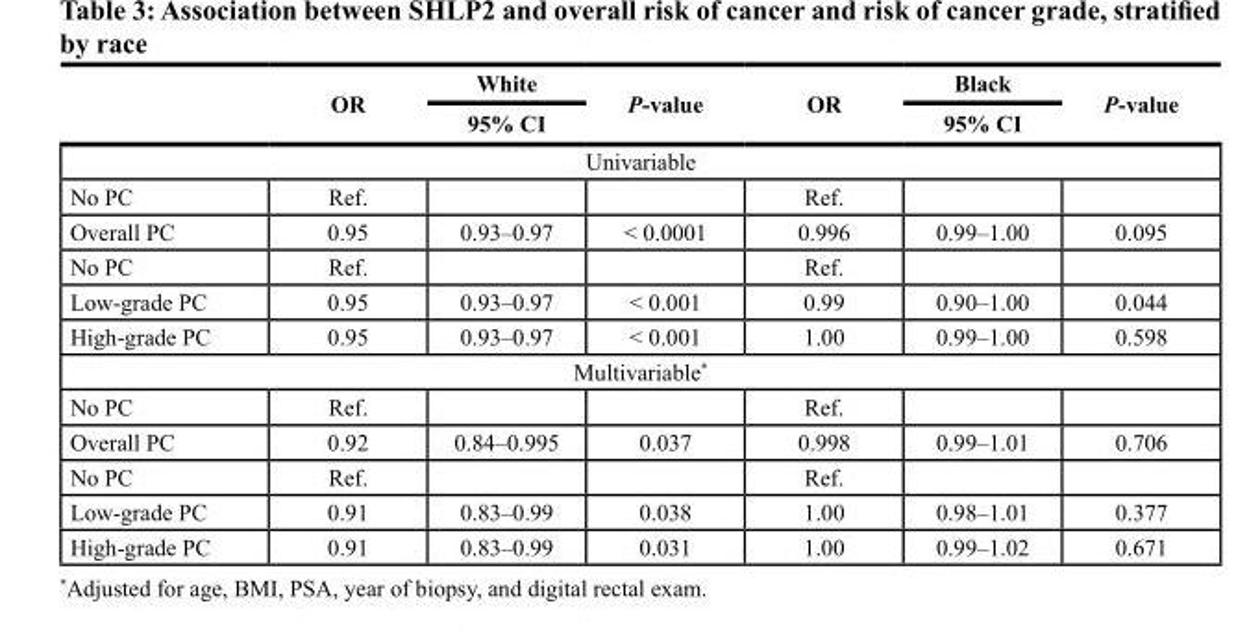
<table><thead><tr><td rowspan="2"></td><td rowspan="2">OR</td><td rowspan="2">White 95% CI</td><td rowspan="2">P-value</td><td rowspan="2">OR</td><td rowspan="2">Black 95% CI</td><td rowspan="2">P-value</td></tr><tr></tr></thead><tbody><tr><td colspan="7">Univariable</td></tr><tr><td>No PC</td><td>Ref.</td><td></td><td></td><td>Ref.</td><td></td><td></td></tr><tr><td>Overall PC</td><td>0.95</td><td>0.93–0.97</td><td>&lt; 0.0001</td><td>0.996</td><td>0.99–1.00</td><td>0.095</td></tr><tr><td>No PC</td><td>Ref.</td><td></td><td></td><td>Ref.</td><td></td><td></td></tr><tr><td>Low-grade PC</td><td>0.95</td><td>0.93–0.97</td><td>&lt; 0.001</td><td>0.99</td><td>0.90–1.00</td><td>0.044</td></tr><tr><td>High-grade PC</td><td>0.95</td><td>0.93–0.97</td><td>&lt; 0.001</td><td>1.00</td><td>0.99–1.00</td><td>0.598</td></tr><tr><td colspan="7">Multivariable*</td></tr><tr><td>No PC</td><td>Ref.</td><td></td><td></td><td>Ref.</td><td></td><td></td></tr><tr><td>Overall PC</td><td>0.92</td><td>0.84–0.995</td><td>0.037</td><td>0.998</td><td>0.99–1.01</td><td>0.706</td></tr><tr><td>No PC</td><td>Ref.</td><td></td><td></td><td>Ref.</td><td></td><td></td></tr><tr><td>Low-grade PC</td><td>0.91</td><td>0.83–0.99</td><td>0.038</td><td>1.00</td><td>0.98–1.01</td><td>0.377</td></tr><tr><td>High-grade PC</td><td>0.91</td><td>0.83–0.99</td><td>0.031</td><td>1.00</td><td>0.99–1.02</td><td>0.671</td></tr></tbody></table>